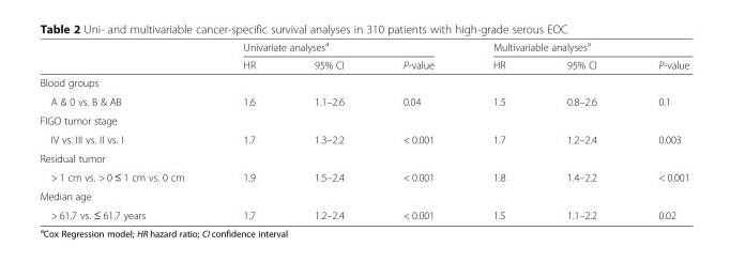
<table><thead><tr><td rowspan="2"></td><td colspan="3">Univariate analyses<sup>a</sup></td><td colspan="3">Multivariable analyses<sup>a</sup></td></tr><tr><td>HR</td><td>95% CI</td><td>P-value</td><td>HR</td><td>95% CI</td><td>P-value</td></tr></thead><tbody><tr><td colspan="7">Blood groups</td></tr><tr><td>A &amp; 0 vs. B &amp; AB</td><td>1.6</td><td>1.1–2.6</td><td>0.04</td><td>1.5</td><td>0.8–2.6</td><td>0.1</td></tr><tr><td colspan="7">FIGO tumor stage</td></tr><tr><td>IV vs. III vs. II vs. I</td><td>1.7</td><td>1.3–2.2</td><td>&lt; 0.001</td><td>1.7</td><td>1.2–2.4</td><td>0.003</td></tr><tr><td colspan="7">Residual tumor</td></tr><tr><td>&gt; 1 cm vs. &gt; 0 ≤ 1 cm vs. 0 cm</td><td>1.9</td><td>1.5–2.4</td><td>&lt; 0.001</td><td>1.8</td><td>1.4–2.2</td><td>&lt; 0.001</td></tr><tr><td colspan="7">Median age</td></tr><tr><td>&gt; 61.7 vs. ≤ 61.7 years</td><td>1.7</td><td>1.2–2.4</td><td>&lt; 0.001</td><td>1.5</td><td>1.1–2.2</td><td>0.02</td></tr></tbody></table>